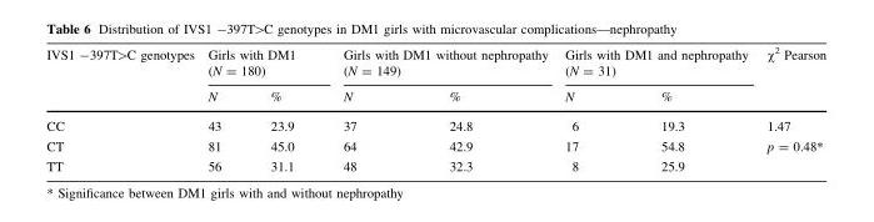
<table><thead><tr><td rowspan="2">IVS1 -397T&gt;C genotypes</td><td colspan="2">Girls with DM1 (N = 180)</td><td colspan="2">Girls with DM1 without nephropathy (N = 149)</td><td colspan="2">Girls with DM1 and nephropathy (N = 31)</td><td rowspan="2">χ<sup>2</sup> Pearson</td></tr><tr><td>N</td><td>%</td><td>N</td><td>%</td><td>N</td><td>%</td></tr></thead><tbody><tr><td>CC</td><td>43</td><td>23.9</td><td>37</td><td>24.8</td><td>6</td><td>19.3</td><td rowspan="3">1.47 p = 0.48*</td></tr><tr><td>CT</td><td>81</td><td>45.0</td><td>64</td><td>42.9</td><td>17</td><td>54.8</td></tr><tr><td>TT</td><td>56</td><td>31.1</td><td>48</td><td>32.3</td><td>8</td><td>25.9</td></tr></tbody></table>